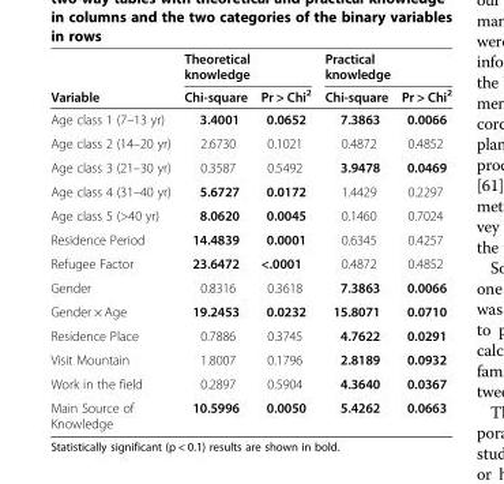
<table><thead><tr><td rowspan="2">Variable</td><td colspan="2">Theoretical knowledge</td><td colspan="2">Practical knowledge</td></tr><tr><td>Chi-square</td><td>Pr &gt; Chi<sup>2</sup></td><td>Chi-square</td><td>Pr &gt; Chi<sup>2</sup></td></tr></thead><tbody><tr><td>Age class 1 (7–13 yr)</td><td>3.4001</td><td>0.0652</td><td>7.3863</td><td>0.0066</td></tr><tr><td>Age class 2 (14–20 yr)</td><td>2.6730</td><td>0.1021</td><td>0.4872</td><td>0.4852</td></tr><tr><td>Age class 3 (21–30 yr)</td><td>0.3587</td><td>0.5492</td><td>3.9478</td><td>0.0469</td></tr><tr><td>Age class 4 (31–40 yr)</td><td>5.6727</td><td>0.0172</td><td>1.4429</td><td>0.2297</td></tr><tr><td>Age class 5 (&gt;40 yr)</td><td>8.0620</td><td>0.0045</td><td>0.1460</td><td>0.7024</td></tr><tr><td>Residence Period</td><td>14.4839</td><td>0.0001</td><td>0.6345</td><td>0.4257</td></tr><tr><td>Refugee Factor</td><td>23.6472</td><td>&lt;.0001</td><td>0.4872</td><td>0.4852</td></tr><tr><td>Gender</td><td>0.8316</td><td>0.3618</td><td>7.3863</td><td>0.0066</td></tr><tr><td>Gender × Age</td><td>19.2453</td><td>0.0232</td><td>15.8071</td><td>0.0710</td></tr><tr><td>Residence Place</td><td>0.7886</td><td>0.3745</td><td>4.7622</td><td>0.0291</td></tr><tr><td>Visit Mountain</td><td>1.8007</td><td>0.1796</td><td>2.8189</td><td>0.0932</td></tr><tr><td>Work in the field</td><td>0.2897</td><td>0.5904</td><td>4.3640</td><td>0.0367</td></tr><tr><td>Main Source of Knowledge</td><td>10.5996</td><td>0.0050</td><td>5.4262</td><td>0.0663</td></tr></tbody></table>